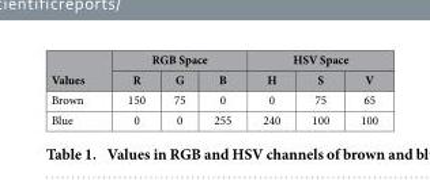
<table><thead><tr><td rowspan="2">Values</td><td colspan="3">RGB Space</td><td colspan="3">HSV Space</td></tr><tr><td>R</td><td>G</td><td>B</td><td>H</td><td>S</td><td>V</td></tr></thead><tbody><tr><td>Brown</td><td>150</td><td>75</td><td>0</td><td>0</td><td>75</td><td>65</td></tr><tr><td>Blue</td><td>0</td><td>0</td><td>255</td><td>240</td><td>100</td><td>100</td></tr></tbody></table>